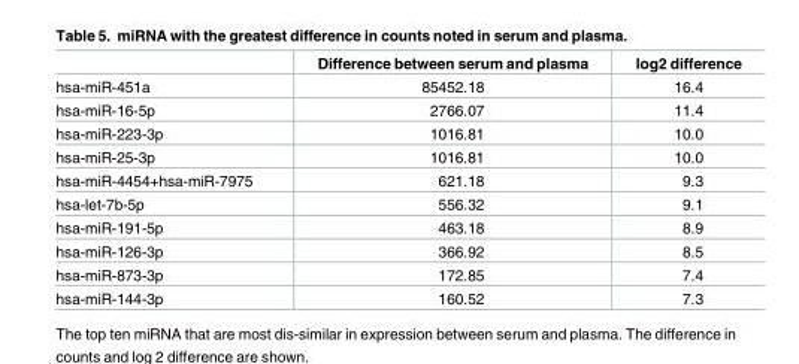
<table><thead><tr><td></td><td>Difference between serum and plasma</td><td>log2 difference</td></tr></thead><tbody><tr><td>hsa-miR-451a</td><td>85452.18</td><td>16.4</td></tr><tr><td>hsa-miR-16-5p</td><td>2766.07</td><td>11.4</td></tr><tr><td>hsa-miR-223-3p</td><td>1016.81</td><td>10.0</td></tr><tr><td>hsa-miR-25-3p</td><td>1016.81</td><td>10.0</td></tr><tr><td>hsa-miR-4454+hsa-miR-7975</td><td>621.18</td><td>9.3</td></tr><tr><td>hsa-let-7b-5p</td><td>556.32</td><td>9.1</td></tr><tr><td>hsa-miR-191-5p</td><td>463.18</td><td>8.9</td></tr><tr><td>hsa-miR-126-3p</td><td>366.92</td><td>8.5</td></tr><tr><td>hsa-miR-873-3p</td><td>172.85</td><td>7.4</td></tr><tr><td>hsa-miR-144-3p</td><td>160.52</td><td>7.3</td></tr></tbody></table>